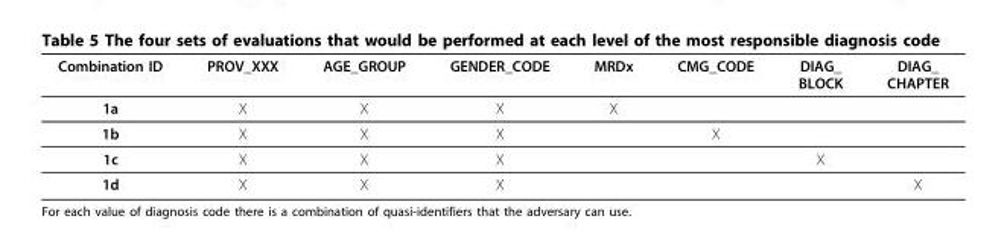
<table><thead><tr><td>Combination ID</td><td>PROV_XXX</td><td>AGE_GROUP</td><td>GENDER_CODE</td><td>MRDx</td><td>CMG_CODE</td><td>DIAG_ BLOCK</td><td>DIAG_ CHAPTER</td></tr></thead><tbody><tr><td>1a</td><td>X</td><td>X</td><td>X</td><td>X</td><td></td><td></td><td></td></tr><tr><td>1b</td><td>X</td><td>X</td><td>X</td><td></td><td>X</td><td></td><td></td></tr><tr><td>1c</td><td>X</td><td>X</td><td>X</td><td></td><td></td><td>X</td><td></td></tr><tr><td>1d</td><td>X</td><td>X</td><td>X</td><td></td><td></td><td></td><td>X</td></tr></tbody></table>